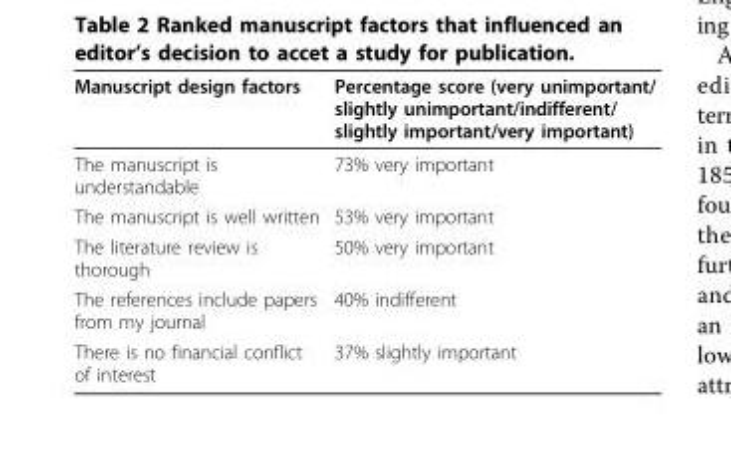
<table><thead><tr><td>Manuscript design factors</td><td>Percentage score (very unimportant/ slightly unimportant/indifferent/ slightly important/very important)</td></tr></thead><tbody><tr><td>The manuscript is understandable</td><td>73% very important</td></tr><tr><td>The manuscript is well written</td><td>53% very important</td></tr><tr><td>The literature review is thorough</td><td>50% very important</td></tr><tr><td>The references include papers from my journal</td><td>40% indifferent</td></tr><tr><td>There is no financial conflict of interest</td><td>37% slightly important</td></tr></tbody></table>